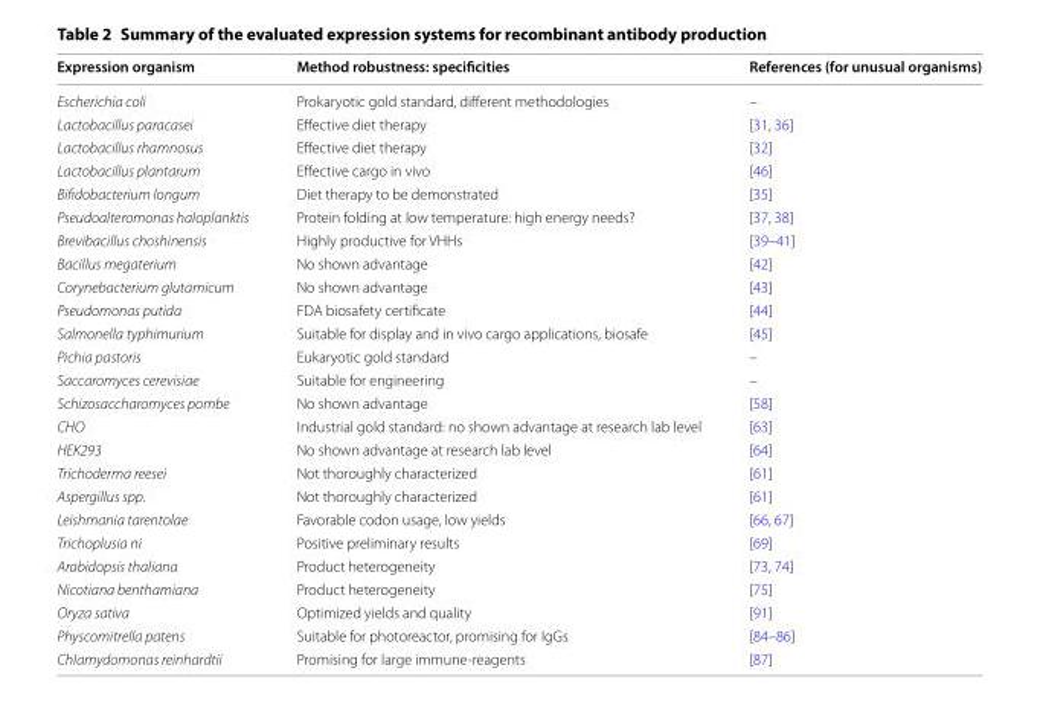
<table><thead><tr><td>Expression organism</td><td>Method robustness: specificities</td><td>References (for unusual organisms)</td></tr></thead><tbody><tr><td>Escherichia coli</td><td>Prokaryotic gold standard, different methodologies</td><td>–</td></tr><tr><td>Lactobacillus paracasei</td><td>Effective diet therapy</td><td>[31, 36]</td></tr><tr><td>Lactobacillus rhamnosus</td><td>Effective diet therapy</td><td>[32]</td></tr><tr><td>Lactobacillus plantarum</td><td>Effective cargo in vivo</td><td>[46]</td></tr><tr><td>Bifidobacterium longum</td><td>Diet therapy to be demonstrated</td><td>[35]</td></tr><tr><td>Pseudoalteromonas haloplanktis</td><td>Protein folding at low temperature: high energy needs?</td><td>[37, 38]</td></tr><tr><td>Brevibacillus choshinensis</td><td>Highly productive for VHHs</td><td>[39–41]</td></tr><tr><td>Bacillus megaterium</td><td>No shown advantage</td><td>[42]</td></tr><tr><td>Corynebacterium glutamicum</td><td>No shown advantage</td><td>[43]</td></tr><tr><td>Pseudomonas putida</td><td>FDA biosafety certificate</td><td>[44]</td></tr><tr><td>Salmonella typhimurium</td><td>Suitable for display and in vivo cargo applications, biosafe</td><td>[45]</td></tr><tr><td>Pichia pastoris</td><td>Eukaryotic gold standard</td><td>–</td></tr><tr><td>Saccaromyces cerevisiae</td><td>Suitable for engineering</td><td>–</td></tr><tr><td>Schizosaccharomyces pombe</td><td>No shown advantage</td><td>[58]</td></tr><tr><td>CHO</td><td>Industrial gold standard: no shown advantage at research lab level</td><td>[63]</td></tr><tr><td>HEK293</td><td>No shown advantage at research lab level</td><td>[64]</td></tr><tr><td>Trichoderma reesei</td><td>Not thoroughly characterized</td><td>[61]</td></tr><tr><td>Aspergillus spp.</td><td>Not thoroughly characterized</td><td>[61]</td></tr><tr><td>Leishmania tarentolae</td><td>Favorable codon usage, low yields</td><td>[66, 67]</td></tr><tr><td>Trichoplusia ni</td><td>Positive preliminary results</td><td>[69]</td></tr><tr><td>Arabidopsis thaliana</td><td>Product heterogeneity</td><td>[73, 74]</td></tr><tr><td>Nicotiana benthamiana</td><td>Product heterogeneity</td><td>[75]</td></tr><tr><td>Oryza sativa</td><td>Optimized yields and quality</td><td>[91]</td></tr><tr><td>Physcomitrella patens</td><td>Suitable for photoreactor, promising for IgGs</td><td>[84–86]</td></tr><tr><td>Chlamydomonas reinhardtii</td><td>Promising for large immune-reagents</td><td>[87]</td></tr></tbody></table>